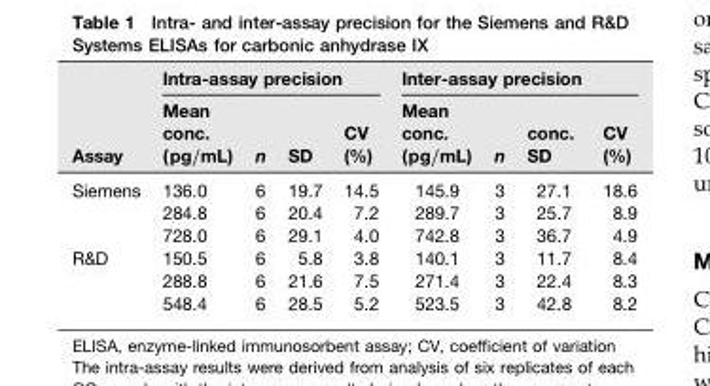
<table><thead><tr><td rowspan="2">Assay</td><td colspan="4">Intra-assay precision</td><td colspan="4">Inter-assay precision</td></tr><tr><td>Mean conc. (pg/mL)</td><td>n</td><td>SD</td><td>CV (%)</td><td>Mean conc. (pg/mL)</td><td>n</td><td>conc. SD</td><td>CV (%)</td></tr></thead><tbody><tr><td rowspan="3">Siemens</td><td>136.0</td><td>6</td><td>19.7</td><td>14.5</td><td>145.9</td><td>3</td><td>27.1</td><td>18.6</td></tr><tr><td>284.8</td><td>6</td><td>20.4</td><td>7.2</td><td>289.7</td><td>3</td><td>25.7</td><td>8.9</td></tr><tr><td>728.0</td><td>6</td><td>29.1</td><td>4.0</td><td>742.8</td><td>3</td><td>36.7</td><td>4.9</td></tr><tr><td rowspan="3">R&amp;D</td><td>150.5</td><td>6</td><td>5.8</td><td>3.8</td><td>140.1</td><td>3</td><td>11.7</td><td>8.4</td></tr><tr><td>288.8</td><td>6</td><td>21.6</td><td>7.5</td><td>271.4</td><td>3</td><td>22.4</td><td>8.3</td></tr><tr><td>548.4</td><td>6</td><td>28.5</td><td>5.2</td><td>523.5</td><td>3</td><td>42.8</td><td>8.2</td></tr></tbody></table>